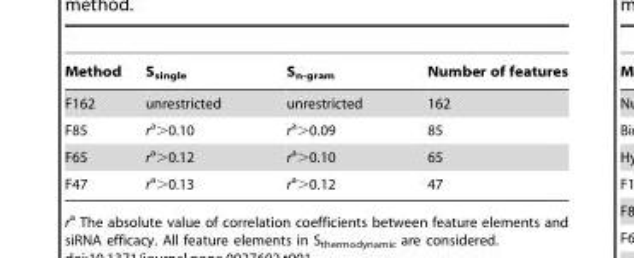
<table><thead><tr><td>Method</td><td>S<sub>single</sub></td><td>S<sub>n-gram</sub></td><td>Number of features</td></tr></thead><tbody><tr><td>F162</td><td>unrestricted</td><td>unrestricted</td><td>162</td></tr><tr><td>F85</td><td>r<sup>a</sup>&gt;0.10</td><td>r<sup>a</sup>&gt;0.09</td><td>85</td></tr><tr><td>F65</td><td>r<sup>a</sup>&gt;0.12</td><td>r<sup>a</sup>&gt;0.10</td><td>65</td></tr><tr><td>F47</td><td>r<sup>a</sup>&gt;0.13</td><td>r<sup>a</sup>&gt;0.12</td><td>47</td></tr></tbody></table>